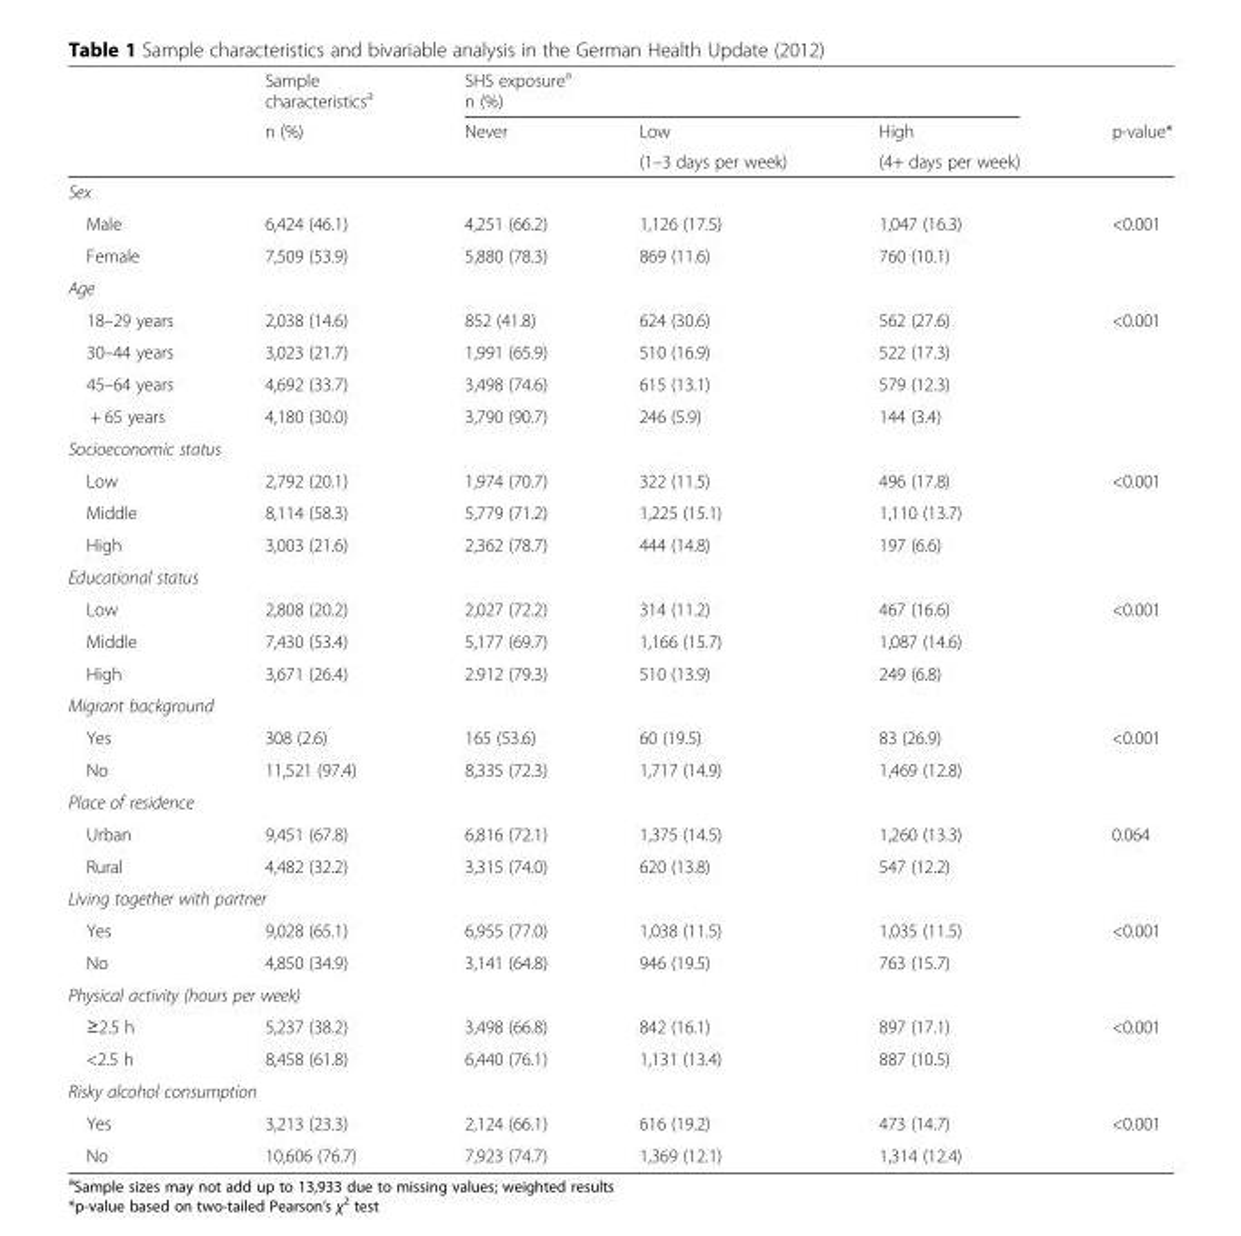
<table><thead><tr><td rowspan="4"></td><td rowspan="4">Sample characteristics<sup>a</sup> n (%)</td><td rowspan="2" colspan="3">SHS exposure<sup>a</sup> n (%)</td><td rowspan="4">p-value*</td></tr><tr></tr><tr><td rowspan="2">Never</td><td rowspan="2">Low (1–3 days per week)</td><td rowspan="2">High (4+ days per week)</td></tr><tr></tr></thead><tbody><tr><td colspan="6">Sex</td></tr><tr><td>Male</td><td>6,424 (46.1)</td><td>4,251 (66.2)</td><td>1,126 (17.5)</td><td>1,047 (16.3)</td><td rowspan="2">&lt;0.001</td></tr><tr><td>Female</td><td>7,509 (53.9)</td><td>5,880 (78.3)</td><td>869 (11.6)</td><td>760 (10.1)</td></tr><tr><td colspan="6">Age</td></tr><tr><td>18–29 years</td><td>2,038 (14.6)</td><td>852 (41.8)</td><td>624 (30.6)</td><td>562 (27.6)</td><td rowspan="4">&lt;0.001</td></tr><tr><td>30–44 years</td><td>3,023 (21.7)</td><td>1,991 (65.9)</td><td>510 (16.9)</td><td>522 (17.3)</td></tr><tr><td>45–64 years</td><td>4,692 (33.7)</td><td>3,498 (74.6)</td><td>615 (13.1)</td><td>579 (12.3)</td></tr><tr><td>+ 65 years</td><td>4,180 (30.0)</td><td>3,790 (90.7)</td><td>246 (5.9)</td><td>144 (3.4)</td></tr><tr><td colspan="6">Socioeconomic status</td></tr><tr><td>Low</td><td>2,792 (20.1)</td><td>1,974 (70.7)</td><td>322 (11.5)</td><td>496 (17.8)</td><td rowspan="3">&lt;0.001</td></tr><tr><td>Middle</td><td>8,114 (58.3)</td><td>5,779 (71.2)</td><td>1,225 (15.1)</td><td>1,110 (13.7)</td></tr><tr><td>High</td><td>3,003 (21.6)</td><td>2,362 (78.7)</td><td>444 (14.8)</td><td>197 (6.6)</td></tr><tr><td colspan="6">Educational status</td></tr><tr><td>Low</td><td>2,808 (20.2)</td><td>2,027 (72.2)</td><td>314 (11.2)</td><td>467 (16.6)</td><td rowspan="3">&lt;0.001</td></tr><tr><td>Middle</td><td>7,430 (53.4)</td><td>5,177 (69.7)</td><td>1,166 (15.7)</td><td>1,087 (14.6)</td></tr><tr><td>High</td><td>3,671 (26.4)</td><td>2.912 (79.3)</td><td>510 (13.9)</td><td>249 (6.8)</td></tr><tr><td colspan="6">Migrant background</td></tr><tr><td>Yes</td><td>308 (2.6)</td><td>165 (53.6)</td><td>60 (19.5)</td><td>83 (26.9)</td><td rowspan="2">&lt;0.001</td></tr><tr><td>No</td><td>11,521 (97.4)</td><td>8,335 (72.3)</td><td>1,717 (14.9)</td><td>1,469 (12.8)</td></tr><tr><td colspan="6">Place of residence</td></tr><tr><td>Urban</td><td>9,451 (67.8)</td><td>6,816 (72.1)</td><td>1,375 (14.5)</td><td>1,260 (13.3)</td><td rowspan="2">0.064</td></tr><tr><td>Rural</td><td>4,482 (32.2)</td><td>3,315 (74.0)</td><td>620 (13.8)</td><td>547 (12.2)</td></tr><tr><td colspan="6">Living together with partner</td></tr><tr><td>Yes</td><td>9,028 (65.1)</td><td>6,955 (77.0)</td><td>1,038 (11.5)</td><td>1,035 (11.5)</td><td rowspan="2">&lt;0.001</td></tr><tr><td>No</td><td>4,850 (34.9)</td><td>3,141 (64.8)</td><td>946 (19.5)</td><td>763 (15.7)</td></tr><tr><td colspan="6">Physical activity (hours per week)</td></tr><tr><td>≥2.5 h</td><td>5,237 (38.2)</td><td>3,498 (66.8)</td><td>842 (16.1)</td><td>897 (17.1)</td><td rowspan="2">&lt;0.001</td></tr><tr><td>&lt;2.5 h</td><td>8,458 (61.8)</td><td>6,440 (76.1)</td><td>1,131 (13.4)</td><td>887 (10.5)</td></tr><tr><td colspan="6">Risky alcohol consumption</td></tr><tr><td>Yes</td><td>3,213 (23.3)</td><td>2,124 (66.1)</td><td>616 (19.2)</td><td>473 (14.7)</td><td rowspan="2">&lt;0.001</td></tr><tr><td>No</td><td>10,606 (76.7)</td><td>7,923 (74.7)</td><td>1,369 (12.1)</td><td>1,314 (12.4)</td></tr></tbody></table>